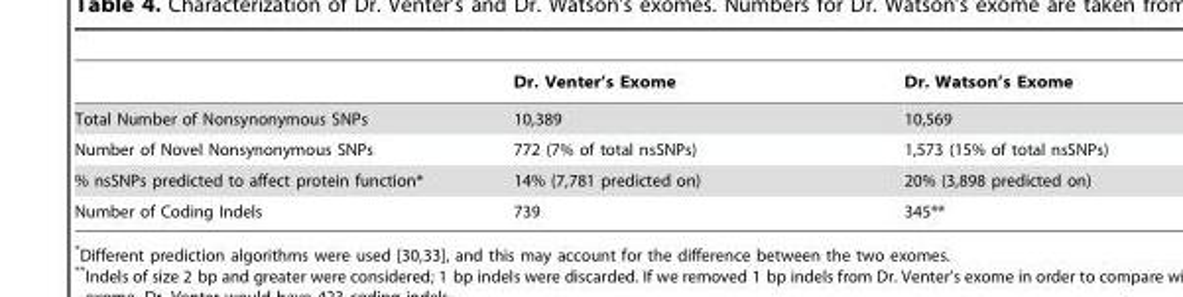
<table><thead><tr><td></td><td>Dr. Venter’s Exome</td><td>Dr. Watson’s Exome</td></tr></thead><tbody><tr><td>Total Number of Nonsynonymous SNPs</td><td>10,389</td><td>10,569</td></tr><tr><td>Number of Novel Nonsynonymous SNPs</td><td>772 (7% of total nsSNPs)</td><td>1,573 (15% of total nsSNPs)</td></tr><tr><td>% nsSNPs predicted to affect protein function*</td><td>14% (7,781 predicted on)</td><td>20% (3,898 predicted on)</td></tr><tr><td>Number of Coding Indels</td><td>739</td><td>345**</td></tr></tbody></table>